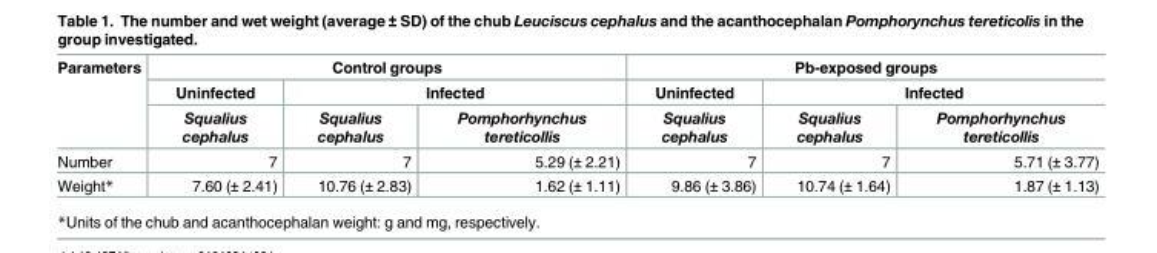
<table><thead><tr><td rowspan="3">Parameters</td><td colspan="3">Control groups</td><td colspan="3">Pb-exposed groups</td></tr><tr><td rowspan="2">Uninfected Squalius cephalus</td><td colspan="2">Infected</td><td rowspan="2">Uninfected Squalius cephalus</td><td colspan="2">Infected</td></tr><tr><td>Squalius cephalus</td><td>Pomphorhynchus tereticollis</td><td>Squalius cephalus</td><td>Pomphorhynchus tereticollis</td></tr></thead><tbody><tr><td>Number</td><td>7</td><td>7</td><td>5.29 (± 2.21)</td><td>7</td><td>7</td><td>5.71 (± 3.77)</td></tr><tr><td>Weight*</td><td>7.60 (± 2.41)</td><td>10.76 (± 2.83)</td><td>1.62 (± 1.11)</td><td>9.86 (± 3.86)</td><td>10.74 (± 1.64)</td><td>1.87 (± 1.13)</td></tr></tbody></table>